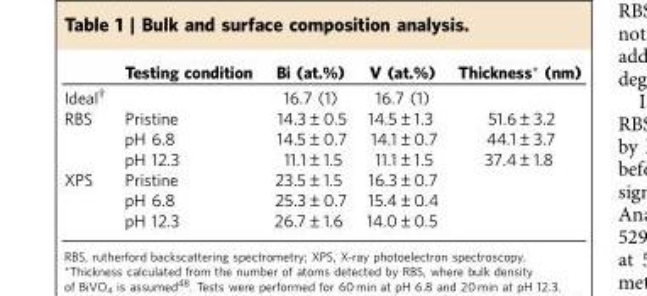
<table><thead><tr><td></td><td>Testing condition</td><td>Bi (at.%)</td><td>V (at.%)</td><td>Thickness* (nm)</td></tr></thead><tbody><tr><td>Ideal†</td><td></td><td>16.7 (1)</td><td>16.7 (1)</td><td></td></tr><tr><td rowspan="3">RBS</td><td>Pristine</td><td>14.3±0.5</td><td>14.5±1.3</td><td>51.6±3.2</td></tr><tr><td>pH 6.8</td><td>14.5±0.7</td><td>14.1±0.7</td><td>44.1±3.7</td></tr><tr><td>pH 12.3</td><td>11.1±1.5</td><td>11.1±1.5</td><td>37.4±1.8</td></tr><tr><td rowspan="3">XPS</td><td>Pristine</td><td>23.5±1.5</td><td>16.3±0.7</td><td></td></tr><tr><td>pH 6.8</td><td>25.3±0.7</td><td>15.4±0.4</td><td></td></tr><tr><td>pH 12.3</td><td>26.7±1.6</td><td>14.0±0.5</td><td></td></tr></tbody></table>